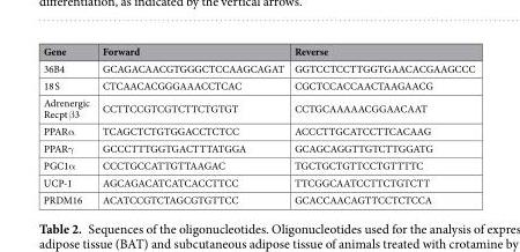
<table><thead><tr><td>Gene</td><td>Forward</td><td>Reverse</td></tr></thead><tbody><tr><td>36B4</td><td>GCAGACAACGTGGGCTCCAAGCAGAT</td><td>GGTCCTCCTTGGTGAACACGAAGCCC</td></tr><tr><td>18 S</td><td>CTCAACACGGGAAACCTCAC</td><td>CGCTCCACCAACTAAGAACG</td></tr><tr><td>Adrenergic Recpt β3</td><td>CCTTCCGTCGTCTTCTGTGT</td><td>CCTGCAAAAACGGAACAAT</td></tr><tr><td>PPARα</td><td>TCAGCTCTGTGGACCTCTCC</td><td>ACCCTTGCATCCTTCACAAG</td></tr><tr><td>PPARγ</td><td>GCCCTTTGGTGACTTTATGGA</td><td>GCAGCAGGTTGTCTTGGATG</td></tr><tr><td>PGC1α</td><td>CCCTGCCATTGTTAAGAC</td><td>TGCTGCTGTTCCTGTTTTC</td></tr><tr><td>UCP-1</td><td>AGCAGACATCATCACCTTCC</td><td>TTCGGCAATCCTTCTGTCTT</td></tr><tr><td>PRDM16</td><td>ACATCCGTCTAGCGTGTTCC</td><td>GCACCAACAGTTCCTCTCCA</td></tr></tbody></table>